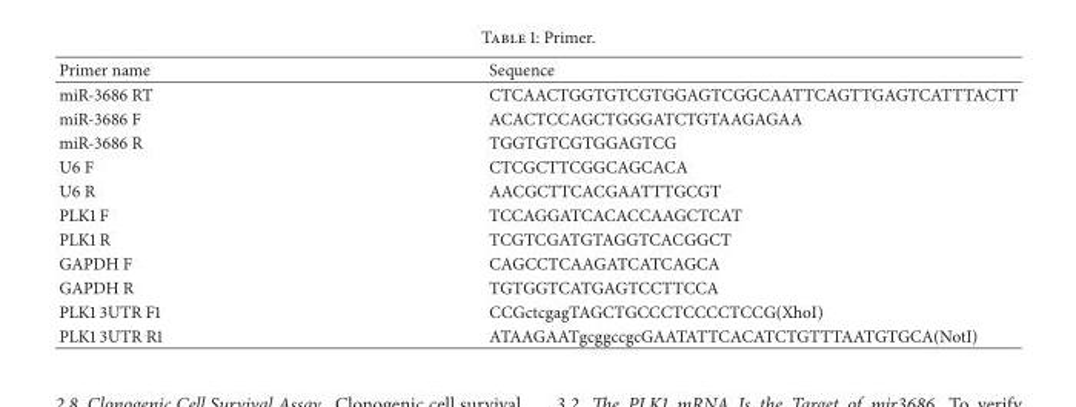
<table><thead><tr><td>Primer name</td><td>Sequence</td></tr></thead><tbody><tr><td>miR-3686 RT</td><td>CTCAACTGGTGTCGTGGAGTCGGCAATTCAGTTGAGTCATTTACTT</td></tr><tr><td>miR-3686 F</td><td>ACACTCCAGCTGGGATCTGTAAGAGAA</td></tr><tr><td>miR-3686 R</td><td>TGGTGTCGTGGAGTCG</td></tr><tr><td>U6 F</td><td>CTCGCTTCGGCAGCACA</td></tr><tr><td>U6 R</td><td>AACGCTTCACGAATTTGCGT</td></tr><tr><td>PLK1 F</td><td>TCCAGGATCACACCAAGCTCAT</td></tr><tr><td>PLK1 R</td><td>TCGTCGATGTAGGTCACGGCT</td></tr><tr><td>GAPDH F</td><td>CAGCCTCAAGATCATCAGCA</td></tr><tr><td>GAPDH R</td><td>TGTGGTCATGAGTCCTTCCA</td></tr><tr><td>PLK1 3UTR F1</td><td>CCGctcgagTAGCTGCCCTCCCCTCCG(XhoI)</td></tr><tr><td>PLK1 3UTR R1</td><td>ATAAGAATgcggccgcGAATATTCACATCTGTTTAATGTGCA(NotI)</td></tr></tbody></table>